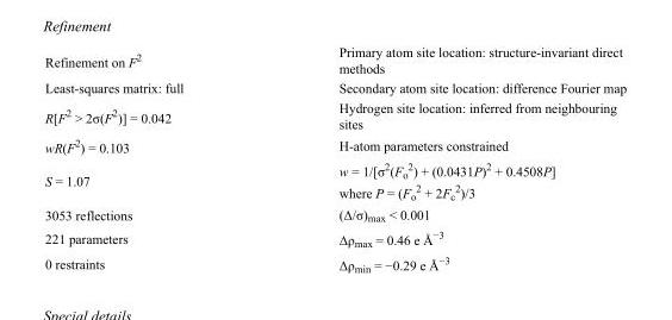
<table><tbody><tr><td>Refinement on F<sup>2</sup></td><td>Primary atom site location: structure-invariant direct methods</td></tr><tr><td>Least-squares matrix: full</td><td>Secondary atom site location: difference Fourier map</td></tr><tr><td>R[F<sup>2</sup> &gt; 2σ(F<sup>2</sup>)] = 0.042</td><td>Hydrogen site location: inferred from neighbouring sites</td></tr><tr><td>wR(F<sup>2</sup>) = 0.103</td><td>H-atom parameters constrained</td></tr><tr><td>S = 1.07</td><td>w = 1/[σ<sup>2</sup>(F<sub>o</sub> <sup>2</sup>) + (0.0431P)<sup>2</sup> + 0.4508P] where P = (F<sub>o</sub> <sup>2</sup> + 2F<sub>c</sub> <sup>2</sup>)/3</td></tr><tr><td>3053 reflections</td><td>(Δ/σ)<sub>max</sub> &lt; 0.001</td></tr><tr><td>221 parameters</td><td>Δρ<sub>max</sub> = 0.46 e Å<sup>−3</sup></td></tr><tr><td>0 restraints</td><td>Δρ<sub>min</sub> = −0.29 e Å<sup>−3</sup></td></tr></tbody></table>